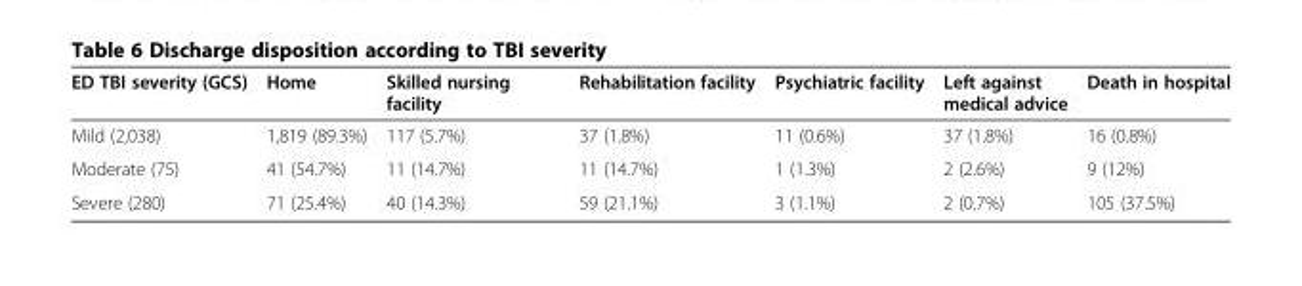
<table><thead><tr><td>ED TBI severity (GCS)</td><td>Home</td><td>Skilled nursing facility</td><td>Rehabilitation facility</td><td>Psychiatric facility</td><td>Left against medical advice</td><td>Death in hospital</td></tr></thead><tbody><tr><td>Mild (2,038)</td><td>1,819 (89.3%)</td><td>117 (5.7%)</td><td>37 (1.8%)</td><td>11 (0.6%)</td><td>37 (1.8%)</td><td>16 (0.8%)</td></tr><tr><td>Moderate (75)</td><td>41 (54.7%)</td><td>11 (14.7%)</td><td>11 (14.7%)</td><td>1 (1.3%)</td><td>2 (2.6%)</td><td>9 (12%)</td></tr><tr><td>Severe (280)</td><td>71 (25.4%)</td><td>40 (14.3%)</td><td>59 (21.1%)</td><td>3 (1.1%)</td><td>2 (0.7%)</td><td>105 (37.5%)</td></tr></tbody></table>